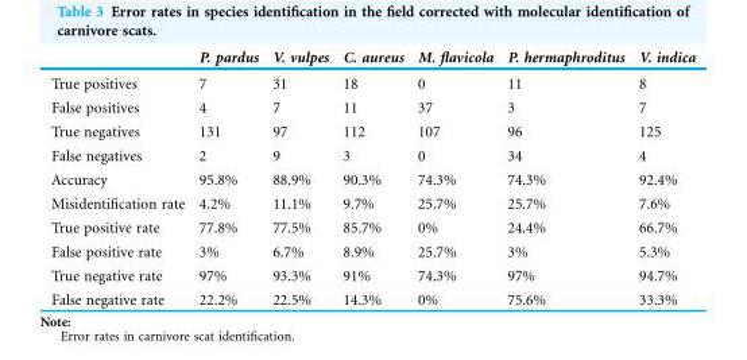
<table><thead><tr><td></td><td>P. pardus</td><td>V. vulpes</td><td>C. aureus</td><td>M. flavicola</td><td>P. hermaphroditus</td><td>V. indica</td></tr></thead><tbody><tr><td>True positives</td><td>7</td><td>31</td><td>18</td><td>0</td><td>11</td><td>8</td></tr><tr><td>False positives</td><td>4</td><td>7</td><td>11</td><td>37</td><td>3</td><td>7</td></tr><tr><td>True negatives</td><td>131</td><td>97</td><td>112</td><td>107</td><td>96</td><td>125</td></tr><tr><td>False negatives</td><td>2</td><td>9</td><td>3</td><td>0</td><td>34</td><td>4</td></tr><tr><td>Accuracy</td><td>95.8%</td><td>88.9%</td><td>90.3%</td><td>74.3%</td><td>74.3%</td><td>92.4%</td></tr><tr><td>Misidentification rate</td><td>4.2%</td><td>11.1%</td><td>9.7%</td><td>25.7%</td><td>25.7%</td><td>7.6%</td></tr><tr><td>True positive rate</td><td>77.8%</td><td>77.5%</td><td>85.7%</td><td>0%</td><td>24.4%</td><td>66.7%</td></tr><tr><td>False positive rate</td><td>3%</td><td>6.7%</td><td>8.9%</td><td>25.7%</td><td>3%</td><td>5.3%</td></tr><tr><td>True negative rate</td><td>97%</td><td>93.3%</td><td>91%</td><td>74.3%</td><td>97%</td><td>94.7%</td></tr><tr><td>False negative rate</td><td>22.2%</td><td>22.5%</td><td>14.3%</td><td>0%</td><td>75.6%</td><td>33.3%</td></tr></tbody></table>